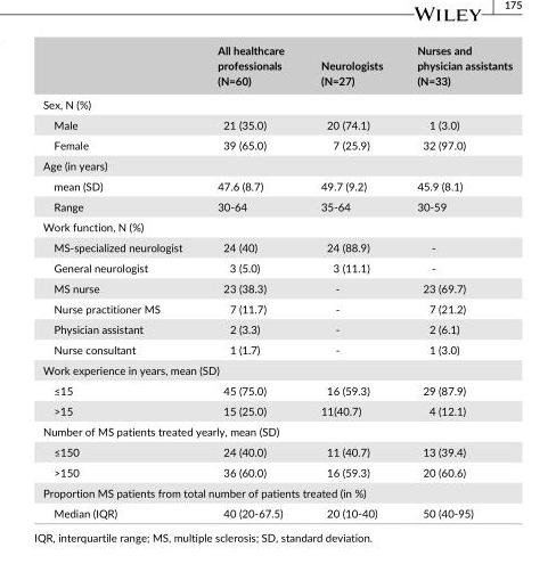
<table><thead><tr><td></td><td>All healthcare professionals (N=60)</td><td>Neurologists (N=27)</td><td>Nurses and physician assistants (N=33)</td></tr></thead><tbody><tr><td colspan="4">Sex, N (%)</td></tr><tr><td>Male</td><td>21 (35.0)</td><td>20 (74.1)</td><td>1 (3.0)</td></tr><tr><td>Female</td><td>39 (65.0)</td><td>7 (25.9)</td><td>32 (97.0)</td></tr><tr><td colspan="4">Age (in years)</td></tr><tr><td>mean (SD)</td><td>47.6 (8.7)</td><td>49.7 (9.2)</td><td>45.9 (8.1)</td></tr><tr><td>Range</td><td>30- 64</td><td>35- 64</td><td>30- 59</td></tr><tr><td colspan="4">Work function, N (%)</td></tr><tr><td>MS- specialized neurologist</td><td>24 (40)</td><td>24 (88.9)</td><td>-</td></tr><tr><td>General neurologist</td><td>3 (5.0)</td><td>3 (11.1)</td><td>-</td></tr><tr><td>MS nurse</td><td>23 (38.3)</td><td>-</td><td>23 (69.7)</td></tr><tr><td>Nurse practitioner MS</td><td>7 (11.7)</td><td>-</td><td>7 (21.2)</td></tr><tr><td>Physician assistant</td><td>2 (3.3)</td><td>-</td><td>2 (6.1)</td></tr><tr><td>Nurse consultant</td><td>1 (1.7)</td><td>-</td><td>1 (3.0)</td></tr><tr><td colspan="4">Work experience in years, mean (SD)</td></tr><tr><td>≤15</td><td>45 (75.0)</td><td>16 (59.3)</td><td>29 (87.9)</td></tr><tr><td>&gt;15</td><td>15 (25.0)</td><td>11(40.7)</td><td>4 (12.1)</td></tr><tr><td colspan="4">Number of MS patients treated yearly, mean (SD)</td></tr><tr><td>≤150</td><td>24 (40.0)</td><td>11 (40.7)</td><td>13 (39.4)</td></tr><tr><td>&gt;150</td><td>36 (60.0)</td><td>16 (59.3)</td><td>20 (60.6)</td></tr><tr><td colspan="4">Proportion MS patients from total number of patients treated (in %)</td></tr><tr><td>Median (IQR)</td><td>40 (20- 67.5)</td><td>20 (10- 40)</td><td>50 (40- 95)</td></tr></tbody></table>